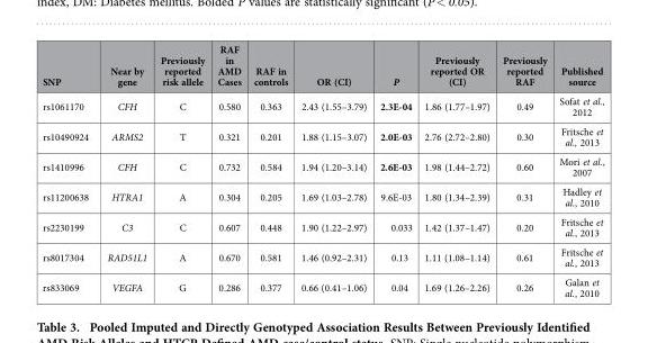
<table><thead><tr><td>SNP</td><td>Near by gene</td><td>Previously reported risk allele</td><td>RAF in AMD Cases</td><td>RAF in controls</td><td>OR (CI)</td><td>P</td><td>Previously reported OR (CI)</td><td>Previously reported RAF</td><td>Published source</td></tr></thead><tbody><tr><td>rs1061170</td><td>CFH</td><td>C</td><td>0.580</td><td>0.363</td><td>2.43 (1.55–3.79)</td><td>2.3E-04</td><td>1.86 (1.77–1.97)</td><td>0.49</td><td>Sofat et al., 2012</td></tr><tr><td>rs10490924</td><td>ARMS2</td><td>T</td><td>0.321</td><td>0.201</td><td>1.88 (1.15–3.07)</td><td>2.0E-03</td><td>2.76 (2.72–2.80)</td><td>0.30</td><td>Fritsche et al., 2013</td></tr><tr><td>rs1410996</td><td>CFH</td><td>C</td><td>0.732</td><td>0.584</td><td>1.94 (1.20–3.14)</td><td>2.6E-03</td><td>1.98 (1.44–2.72)</td><td>0.60</td><td>Mori et al., 2007</td></tr><tr><td>rs11200638</td><td>HTRA1</td><td>A</td><td>0.304</td><td>0.205</td><td>1.69 (1.03–2.78)</td><td>9.6E-03</td><td>1.80 (1.34–2.39)</td><td>0.31</td><td>Hadley et al., 2010</td></tr><tr><td>rs2230199</td><td>C3</td><td>C</td><td>0.607</td><td>0.448</td><td>1.90 (1.22–2.97)</td><td>0.033</td><td>1.42 (1.37–1.47)</td><td>0.20</td><td>Fritsche et al., 2013</td></tr><tr><td>rs8017304</td><td>RAD51L1</td><td>A</td><td>0.670</td><td>0.581</td><td>1.46 (0.92–2.31)</td><td>0.13</td><td>1.11 (1.08–1.14)</td><td>0.61</td><td>Fritsche et al., 2013</td></tr><tr><td>rs833069</td><td>VEGFA</td><td>G</td><td>0.286</td><td>0.377</td><td>0.66 (0.41–1.06)</td><td>0.04</td><td>1.69 (1.26–2.26)</td><td>0.26</td><td>Galan et al., 2010</td></tr></tbody></table>